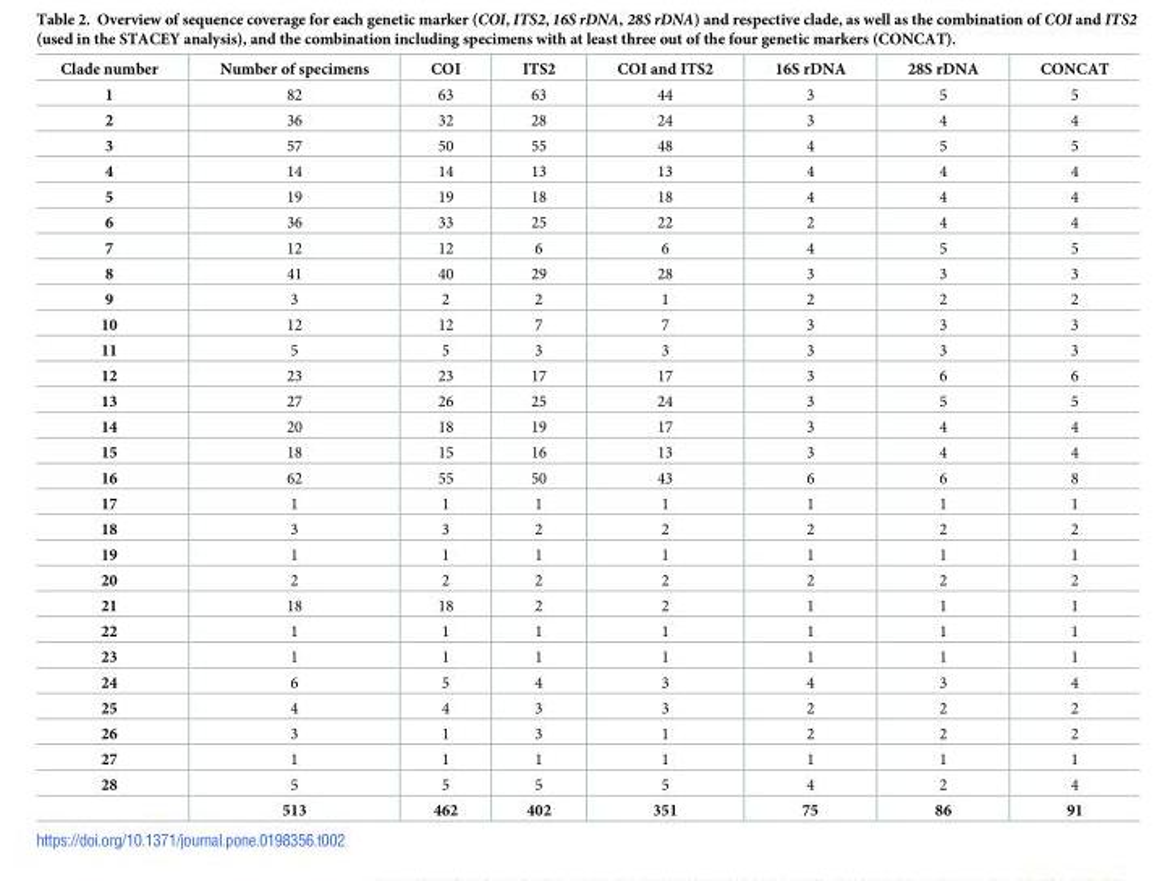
<table><thead><tr><td>Clade number</td><td>Number of specimens</td><td>COI</td><td>ITS2</td><td>COI and ITS2</td><td>16S rDNA</td><td>28S rDNA</td><td>CONCAT</td></tr></thead><tbody><tr><td>1</td><td>82</td><td>63</td><td>63</td><td>44</td><td>3</td><td>5</td><td>5</td></tr><tr><td>2</td><td>36</td><td>32</td><td>28</td><td>24</td><td>3</td><td>4</td><td>4</td></tr><tr><td>3</td><td>57</td><td>50</td><td>55</td><td>48</td><td>4</td><td>5</td><td>5</td></tr><tr><td>4</td><td>14</td><td>14</td><td>13</td><td>13</td><td>4</td><td>4</td><td>4</td></tr><tr><td>5</td><td>19</td><td>19</td><td>18</td><td>18</td><td>4</td><td>4</td><td>4</td></tr><tr><td>6</td><td>36</td><td>33</td><td>25</td><td>22</td><td>2</td><td>4</td><td>4</td></tr><tr><td>7</td><td>12</td><td>12</td><td>6</td><td>6</td><td>4</td><td>5</td><td>5</td></tr><tr><td>8</td><td>41</td><td>40</td><td>29</td><td>28</td><td>3</td><td>3</td><td>3</td></tr><tr><td>9</td><td>3</td><td>2</td><td>2</td><td>1</td><td>2</td><td>2</td><td>2</td></tr><tr><td>10</td><td>12</td><td>12</td><td>7</td><td>7</td><td>3</td><td>3</td><td>3</td></tr><tr><td>11</td><td>5</td><td>5</td><td>3</td><td>3</td><td>3</td><td>3</td><td>3</td></tr><tr><td>12</td><td>23</td><td>23</td><td>17</td><td>17</td><td>3</td><td>6</td><td>6</td></tr><tr><td>13</td><td>27</td><td>26</td><td>25</td><td>24</td><td>3</td><td>5</td><td>5</td></tr><tr><td>14</td><td>20</td><td>18</td><td>19</td><td>17</td><td>3</td><td>4</td><td>4</td></tr><tr><td>15</td><td>18</td><td>15</td><td>16</td><td>13</td><td>3</td><td>4</td><td>4</td></tr><tr><td>16</td><td>62</td><td>55</td><td>50</td><td>43</td><td>6</td><td>6</td><td>8</td></tr><tr><td>17</td><td>1</td><td>1</td><td>1</td><td>1</td><td>1</td><td>1</td><td>1</td></tr><tr><td>18</td><td>3</td><td>3</td><td>2</td><td>2</td><td>2</td><td>2</td><td>2</td></tr><tr><td>19</td><td>1</td><td>1</td><td>1</td><td>1</td><td>1</td><td>1</td><td>1</td></tr><tr><td>20</td><td>2</td><td>2</td><td>2</td><td>2</td><td>2</td><td>2</td><td>2</td></tr><tr><td>21</td><td>18</td><td>18</td><td>2</td><td>2</td><td>1</td><td>1</td><td>1</td></tr><tr><td>22</td><td>1</td><td>1</td><td>1</td><td>1</td><td>1</td><td>1</td><td>1</td></tr><tr><td>23</td><td>1</td><td>1</td><td>1</td><td>1</td><td>1</td><td>1</td><td>1</td></tr><tr><td>24</td><td>6</td><td>5</td><td>4</td><td>3</td><td>4</td><td>3</td><td>4</td></tr><tr><td>25</td><td>4</td><td>4</td><td>3</td><td>3</td><td>2</td><td>2</td><td>2</td></tr><tr><td>26</td><td>3</td><td>1</td><td>3</td><td>1</td><td>2</td><td>2</td><td>2</td></tr><tr><td>27</td><td>1</td><td>1</td><td>1</td><td>1</td><td>1</td><td>1</td><td>1</td></tr><tr><td rowspan="2">28</td><td>5</td><td>5</td><td>5</td><td>5</td><td>4</td><td>2</td><td>4</td></tr><tr><td>513</td><td>462</td><td>402</td><td>351</td><td>75</td><td>86</td><td>91</td></tr></tbody></table>